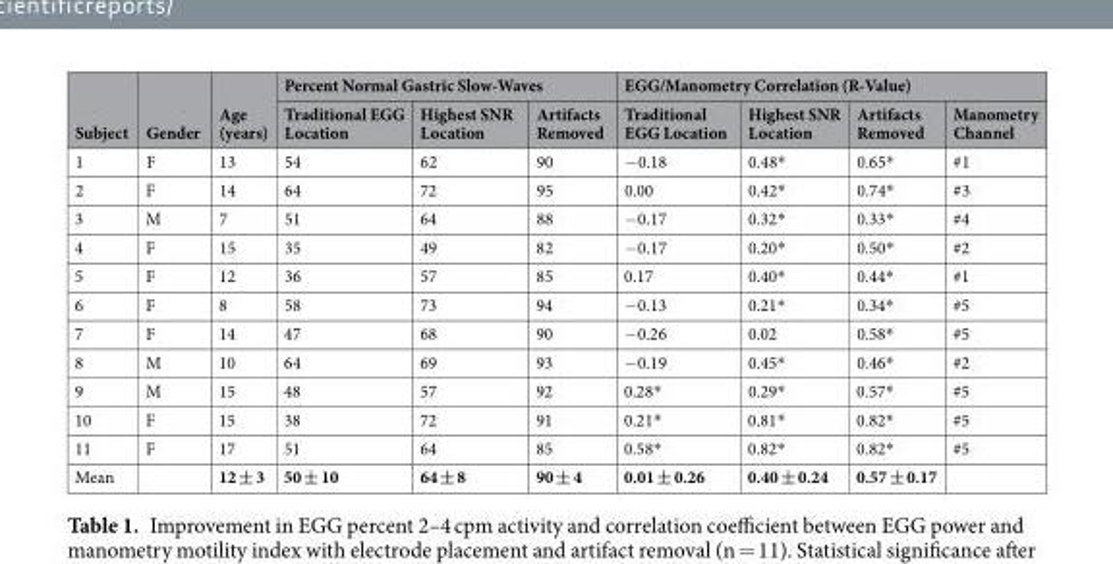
<table><thead><tr><td rowspan="2">Subject</td><td rowspan="2">Gender</td><td rowspan="2">Age (years)</td><td colspan="3">Percent Normal Gastric Slow-Waves</td><td colspan="4">EGG/Manometry Correlation (R-Value)</td></tr><tr><td>Traditional EGG Location</td><td>Highest SNR Location</td><td>Artifacts Removed</td><td>Traditional EGG Location</td><td>Highest SNR Location</td><td>Artifacts Removed</td><td>Manometry Channel</td></tr></thead><tbody><tr><td>1</td><td>F</td><td>13</td><td>54</td><td>62</td><td>90</td><td>−0.18</td><td>0.48*</td><td>0.65*</td><td>#1</td></tr><tr><td>2</td><td>F</td><td>14</td><td>64</td><td>72</td><td>95</td><td>0.00</td><td>0.42*</td><td>0.74*</td><td>#3</td></tr><tr><td>3</td><td>M</td><td>7</td><td>51</td><td>64</td><td>88</td><td>−0.17</td><td>0.32*</td><td>0.33*</td><td>#4</td></tr><tr><td>4</td><td>F</td><td>15</td><td>35</td><td>49</td><td>82</td><td>−0.17</td><td>0.20*</td><td>0.50*</td><td>#2</td></tr><tr><td>5</td><td>F</td><td>12</td><td>36</td><td>57</td><td>85</td><td>0.17</td><td>0.40*</td><td>0.44*</td><td>#1</td></tr><tr><td>6</td><td>F</td><td>8</td><td>58</td><td>73</td><td>94</td><td>−0.13</td><td>0.21*</td><td>0.34*</td><td>#5</td></tr><tr><td>7</td><td>F</td><td>14</td><td>47</td><td>68</td><td>90</td><td>−0.26</td><td>0.02</td><td>0.58*</td><td>#5</td></tr><tr><td>8</td><td>M</td><td>10</td><td>64</td><td>69</td><td>93</td><td>−0.19</td><td>0.45*</td><td>0.46*</td><td>#2</td></tr><tr><td>9</td><td>M</td><td>15</td><td>48</td><td>57</td><td>92</td><td>0.28*</td><td>0.29*</td><td>0.57*</td><td>#5</td></tr><tr><td>10</td><td>F</td><td>15</td><td>38</td><td>72</td><td>91</td><td>0.21*</td><td>0.81*</td><td>0.82*</td><td>#5</td></tr><tr><td>11</td><td>F</td><td>17</td><td>51</td><td>64</td><td>85</td><td>0.58*</td><td>0.82*</td><td>0.82*</td><td>#5</td></tr><tr><td>Mean</td><td></td><td>12 ± 3</td><td>50 ± 10</td><td>64 ± 8</td><td>90 ± 4</td><td>0.01 ± 0.26</td><td>0.40 ± 0.24</td><td>0.57 ± 0.17</td><td></td></tr></tbody></table>